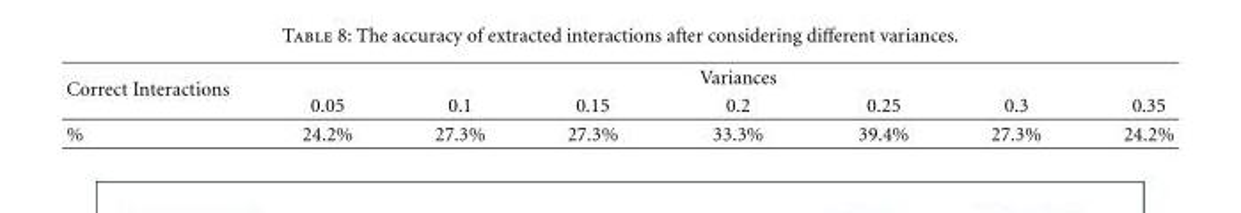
<table><thead><tr><td rowspan="2">Correct Interactions</td><td rowspan="2">0.05</td><td rowspan="2">0.1</td><td rowspan="2">0.15</td><td rowspan="2">Variances 0.2</td><td rowspan="2">0.25</td><td rowspan="2">0.3</td><td rowspan="2">0.35</td></tr><tr></tr></thead><tbody><tr><td>%</td><td>24.2%</td><td>27.3%</td><td>27.3%</td><td>33.3%</td><td>39.4%</td><td>27.3%</td><td>24.2%</td></tr></tbody></table>